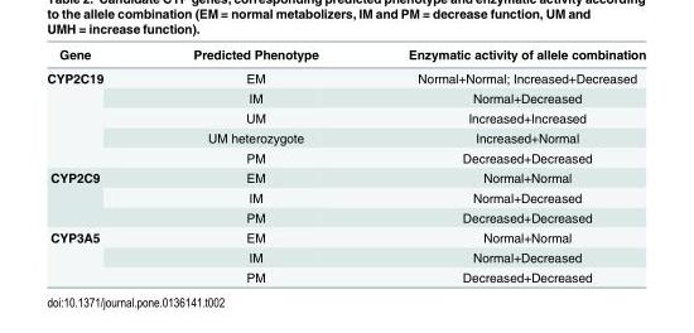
<table><thead><tr><td>Gene</td><td>Predicted Phenotype</td><td>Enzymatic activity of allele combination</td></tr></thead><tbody><tr><td rowspan="5">CYP2C19</td><td>EM</td><td>Normal+Normal; Increased+Decreased</td></tr><tr><td>IM</td><td>Normal+Decreased</td></tr><tr><td>UM</td><td>Increased+Increased</td></tr><tr><td>UM heterozygote</td><td>Increased+Normal</td></tr><tr><td>PM</td><td>Decreased+Decreased</td></tr><tr><td rowspan="3">CYP2C9</td><td>EM</td><td>Normal+Normal</td></tr><tr><td>IM</td><td>Normal+Decreased</td></tr><tr><td>PM</td><td>Decreased+Decreased</td></tr><tr><td rowspan="3">CYP3A5</td><td>EM</td><td>Normal+Normal</td></tr><tr><td>IM</td><td>Normal+Decreased</td></tr><tr><td>PM</td><td>Decreased+Decreased</td></tr></tbody></table>